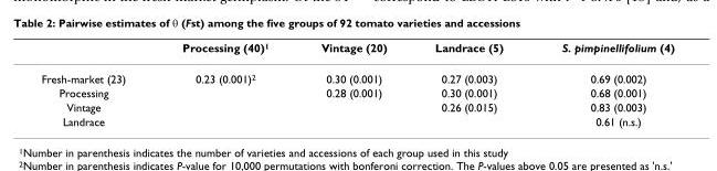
<table><thead><tr><td></td><td>Processing (40)<sup>1</sup></td><td>Vintage (20)</td><td>Landrace (5)</td><td>S. pimpinellifolium (4)</td></tr></thead><tbody><tr><td>Fresh-market (23)</td><td>0.23 (0.001)<sup>2</sup></td><td>0.30 (0.001)</td><td>0.27 (0.003)</td><td>0.69 (0.002)</td></tr><tr><td>Processing</td><td></td><td>0.28 (0.001)</td><td>0.30 (0.001)</td><td>0.68 (0.001)</td></tr><tr><td>Vintage</td><td></td><td></td><td>0.26 (0.015)</td><td>0.83 (0.003)</td></tr><tr><td>Landrace</td><td></td><td></td><td></td><td>0.61 (n.s.)</td></tr></tbody></table>